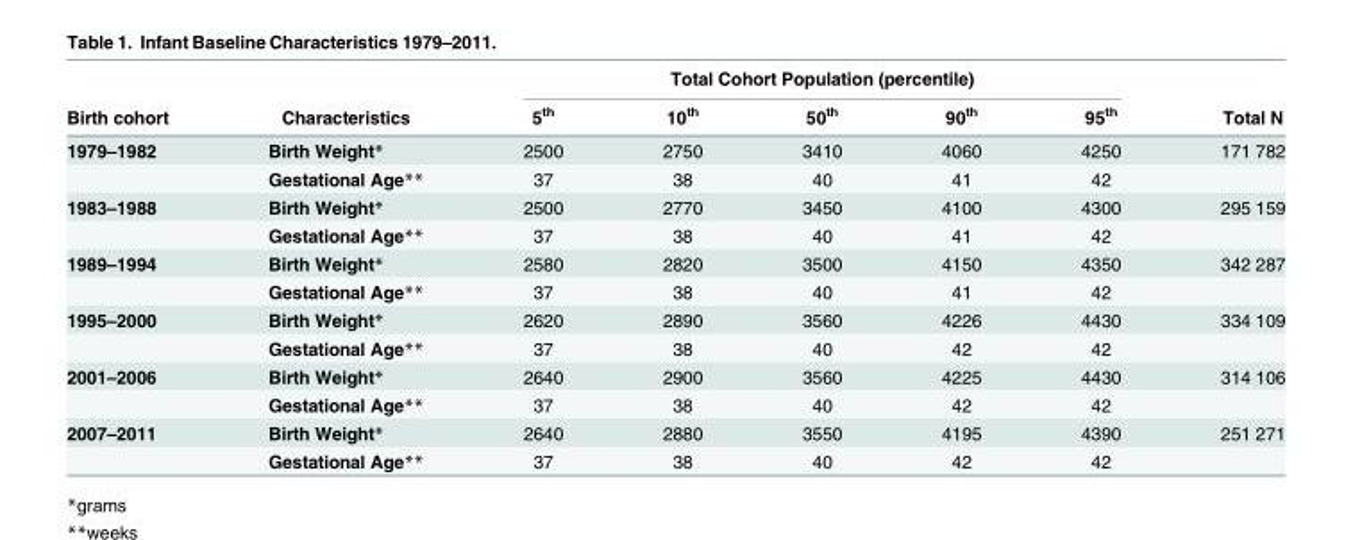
<table><thead><tr><td rowspan="2">Birth cohort</td><td rowspan="2">Characteristics</td><td colspan="5">Total Cohort Population (percentile)</td><td rowspan="2">Total N</td></tr><tr><td>5<sup>th</sup></td><td>10<sup>th</sup></td><td>50<sup>th</sup></td><td>90<sup>th</sup></td><td>95<sup>th</sup></td></tr></thead><tbody><tr><td rowspan="2">1979–1982</td><td>Birth Weight*</td><td>2500</td><td>2750</td><td>3410</td><td>4060</td><td>4250</td><td>171 782</td></tr><tr><td>Gestational Age**</td><td>37</td><td>38</td><td>40</td><td>41</td><td>42</td><td></td></tr><tr><td rowspan="2">1983–1988</td><td>Birth Weight*</td><td>2500</td><td>2770</td><td>3450</td><td>4100</td><td>4300</td><td>295 159</td></tr><tr><td>Gestational Age**</td><td>37</td><td>38</td><td>40</td><td>41</td><td>42</td><td></td></tr><tr><td rowspan="2">1989–1994</td><td>Birth Weight*</td><td>2580</td><td>2820</td><td>3500</td><td>4150</td><td>4350</td><td>342 287</td></tr><tr><td>Gestational Age**</td><td>37</td><td>38</td><td>40</td><td>41</td><td>42</td><td></td></tr><tr><td rowspan="2">1995–2000</td><td>Birth Weight*</td><td>2620</td><td>2890</td><td>3560</td><td>4226</td><td>4430</td><td>334 109</td></tr><tr><td>Gestational Age**</td><td>37</td><td>38</td><td>40</td><td>42</td><td>42</td><td></td></tr><tr><td rowspan="2">2001–2006</td><td>Birth Weight*</td><td>2640</td><td>2900</td><td>3560</td><td>4225</td><td>4430</td><td>314 106</td></tr><tr><td>Gestational Age**</td><td>37</td><td>38</td><td>40</td><td>42</td><td>42</td><td></td></tr><tr><td rowspan="2">2007–2011</td><td>Birth Weight*</td><td>2640</td><td>2880</td><td>3550</td><td>4195</td><td>4390</td><td>251 271</td></tr><tr><td>Gestational Age**</td><td>37</td><td>38</td><td>40</td><td>42</td><td>42</td><td></td></tr></tbody></table>